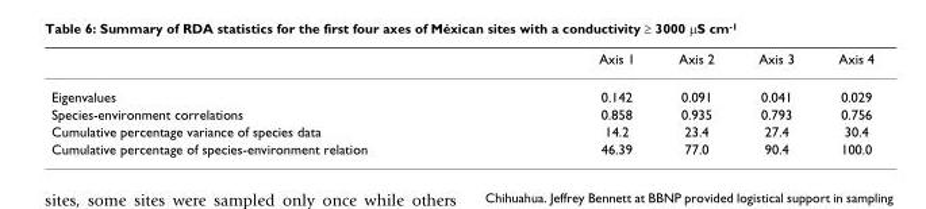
<table><thead><tr><td></td><td>Axis 1</td><td>Axis 2</td><td>Axis 3</td><td>Axis 4</td></tr></thead><tbody><tr><td>Eigenvalues</td><td>0.142</td><td>0.091</td><td>0.041</td><td>0.029</td></tr><tr><td>Species-environment correlations</td><td>0.858</td><td>0.935</td><td>0.793</td><td>0.756</td></tr><tr><td>Cumulative percentage variance of species data</td><td>14.2</td><td>23.4</td><td>27.4</td><td>30.4</td></tr><tr><td>Cumulative percentage of species-environment relation</td><td>46.39</td><td>77.0</td><td>90.4</td><td>100.0</td></tr></tbody></table>